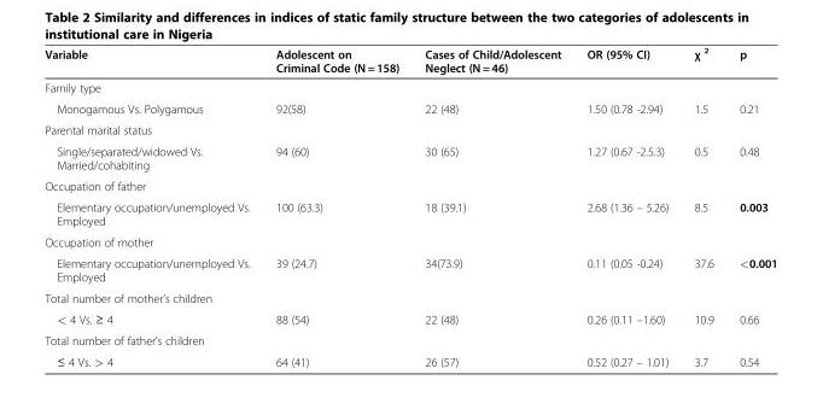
<table><thead><tr><td>Variable</td><td>Adolescent on Criminal Code (N = 158)</td><td>Cases of Child/Adolescent Neglect (N = 46)</td><td>OR (95% CI)</td><td>χ <sup>2</sup></td><td>p</td></tr></thead><tbody><tr><td colspan="6">Family type</td></tr><tr><td>Monogamous Vs. Polygamous</td><td>92(58)</td><td>22 (48)</td><td>1.50 (0.78 -2.94)</td><td>1.5</td><td>0.21</td></tr><tr><td colspan="6">Parental marital status</td></tr><tr><td>Single/separated/widowed Vs. Married/cohabiting</td><td>94 (60)</td><td>30 (65)</td><td>1.27 (0.67 -2.5.3)</td><td>0.5</td><td>0.48</td></tr><tr><td colspan="6">Occupation of father</td></tr><tr><td>Elementary occupation/unemployed Vs. Employed</td><td>100 (63.3)</td><td>18 (39.1)</td><td>2.68 (1.36 – 5.26)</td><td>8.5</td><td>0.003</td></tr><tr><td colspan="6">Occupation of mother</td></tr><tr><td>Elementary occupation/unemployed Vs. Employed</td><td>39 (24.7)</td><td>34(73.9)</td><td>0.11 (0.05 -0.24)</td><td>37.6</td><td>&lt;0.001</td></tr><tr><td colspan="6">Total number of mother’s children</td></tr><tr><td>&lt; 4 Vs. ≥ 4</td><td>88 (54)</td><td>22 (48)</td><td>0.26 (0.11 –1.60)</td><td>10.9</td><td>0.66</td></tr><tr><td colspan="6">Total number of father’s children</td></tr><tr><td>≤ 4 Vs. &gt; 4</td><td>64 (41)</td><td>26 (57)</td><td>0.52 (0.27 – 1.01)</td><td>3.7</td><td>0.54</td></tr></tbody></table>